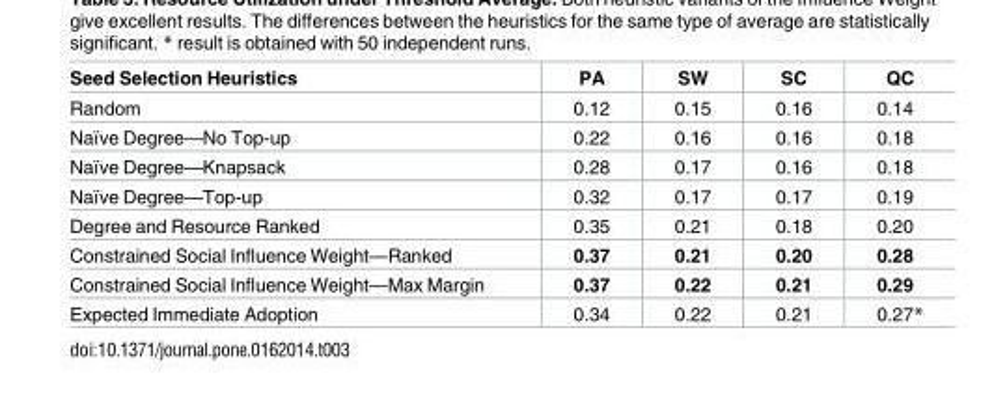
<table><thead><tr><td>Seed Selection Heuristics</td><td>PA</td><td>SW</td><td>SC</td><td>QC</td></tr></thead><tbody><tr><td>Random</td><td>0.12</td><td>0.15</td><td>0.16</td><td>0.14</td></tr><tr><td>Naïve Degree—No Top-up</td><td>0.22</td><td>0.16</td><td>0.16</td><td>0.18</td></tr><tr><td>Naïve Degree—Knapsack</td><td>0.28</td><td>0.17</td><td>0.16</td><td>0.18</td></tr><tr><td>Naïve Degree—Top-up</td><td>0.32</td><td>0.17</td><td>0.17</td><td>0.19</td></tr><tr><td>Degree and Resource Ranked</td><td>0.35</td><td>0.21</td><td>0.18</td><td>0.20</td></tr><tr><td>Constrained Social Influence Weight—Ranked</td><td>0.37</td><td>0.21</td><td>0.20</td><td>0.28</td></tr><tr><td>Constrained Social Influence Weight—Max Margin</td><td>0.37</td><td>0.22</td><td>0.21</td><td>0.29</td></tr><tr><td>Expected Immediate Adoption</td><td>0.34</td><td>0.22</td><td>0.21</td><td>0.27*</td></tr></tbody></table>